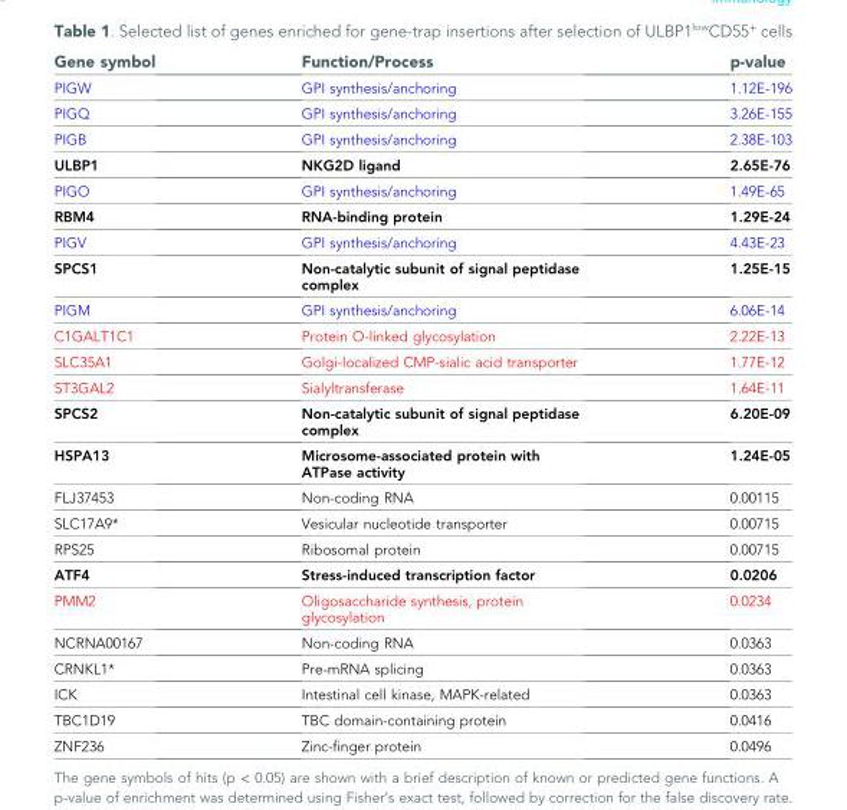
<table><thead><tr><td>Gene symbol</td><td>Function/Process</td><td>p-value</td></tr></thead><tbody><tr><td>PIGW</td><td>GPI synthesis/anchoring</td><td>1.12E-196</td></tr><tr><td>PIGQ</td><td>GPI synthesis/anchoring</td><td>3.26E-155</td></tr><tr><td>PIGB</td><td>GPI synthesis/anchoring</td><td>2.38E-103</td></tr><tr><td>ULBP1</td><td>NKG2D ligand</td><td>2.65E-76</td></tr><tr><td>PIGO</td><td>GPI synthesis/anchoring</td><td>1.49E-65</td></tr><tr><td>RBM4</td><td>RNA-binding protein</td><td>1.29E-24</td></tr><tr><td>PIGV</td><td>GPI synthesis/anchoring</td><td>4.43E-23</td></tr><tr><td>SPCS1</td><td>Non-catalytic subunit of signal peptidase complex</td><td>1.25E-15</td></tr><tr><td>PIGM</td><td>GPI synthesis/anchoring</td><td>6.06E-14</td></tr><tr><td>C1GALT1C1</td><td>Protein O-linked glycosylation</td><td>2.22E-13</td></tr><tr><td>SLC35A1</td><td>Golgi-localized CMP-sialic acid transporter</td><td>1.77E-12</td></tr><tr><td>ST3GAL2</td><td>Sialyltransferase</td><td>1.64E-11</td></tr><tr><td>SPCS2</td><td>Non-catalytic subunit of signal peptidase complex</td><td>6.20E-09</td></tr><tr><td>HSPA13</td><td>Microsome-associated protein with ATPase activity</td><td>1.24E-05</td></tr><tr><td>FLJ37453</td><td>Non-coding RNA</td><td>0.00115</td></tr><tr><td>SLC17A9*</td><td>Vesicular nucleotide transporter</td><td>0.00715</td></tr><tr><td>RPS25</td><td>Ribosomal protein</td><td>0.00715</td></tr><tr><td>ATF4</td><td>Stress-induced transcription factor</td><td>0.0206</td></tr><tr><td>PMM2</td><td>Oligosaccharide synthesis, protein glycosylation</td><td>0.0234</td></tr><tr><td>NCRNA00167</td><td>Non-coding RNA</td><td>0.0363</td></tr><tr><td>CRNKL1*</td><td>Pre-mRNA splicing</td><td>0.0363</td></tr><tr><td>ICK</td><td>Intestinal cell kinase, MAPK-related</td><td>0.0363</td></tr><tr><td>TBC1D19</td><td>TBC domain-containing protein</td><td>0.0416</td></tr><tr><td>ZNF236</td><td>Zinc-finger protein</td><td>0.0496</td></tr></tbody></table>